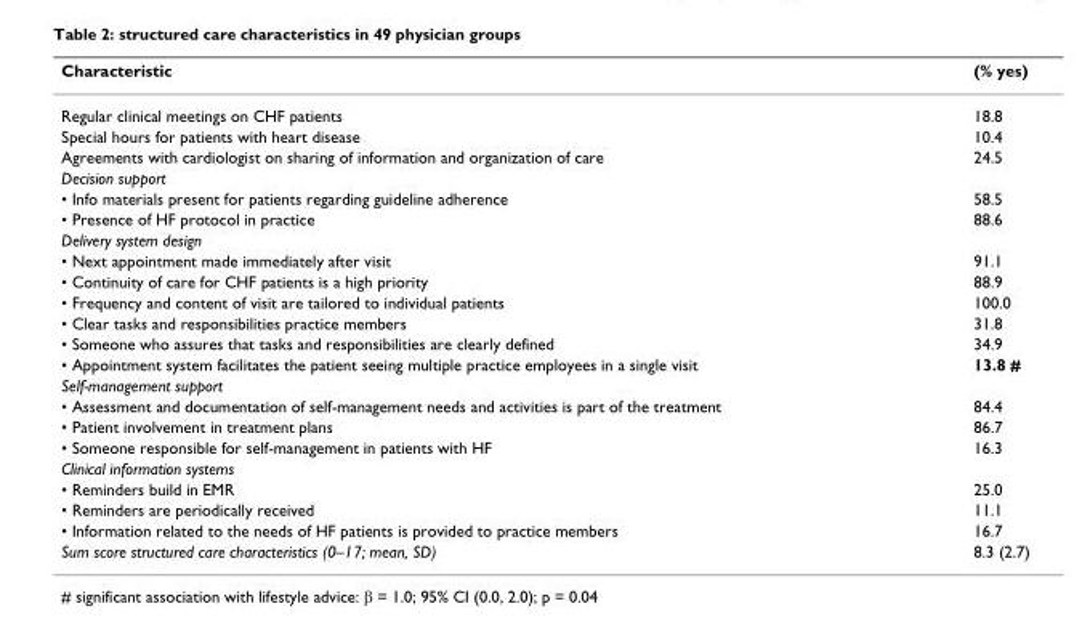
<table><thead><tr><td>Characteristic</td><td>(% yes)</td></tr></thead><tbody><tr><td>Regular clinical meetings on CHF patients</td><td>18.8</td></tr><tr><td>Special hours for patients with heart disease</td><td>10.4</td></tr><tr><td>Agreements with cardiologist on sharing of information and organization of care</td><td>24.5</td></tr><tr><td colspan="2">Decision support</td></tr><tr><td>• Info materials present for patients regarding guideline adherence</td><td>58.5</td></tr><tr><td>• Presence of HF protocol in practice</td><td>88.6</td></tr><tr><td colspan="2">Delivery system design</td></tr><tr><td>• Next appointment made immediately after visit</td><td>91.1</td></tr><tr><td>• Continuity of care for CHF patients is a high priority</td><td>88.9</td></tr><tr><td>• Frequency and content of visit are tailored to individual patients</td><td>100.0</td></tr><tr><td>• Clear tasks and responsibilities practice members</td><td>31.8</td></tr><tr><td>• Someone who assures that tasks and responsibilities are clearly defined</td><td>34.9</td></tr><tr><td>• Appointment system facilitates the patient seeing multiple practice employees in a single visit</td><td>13.8 #</td></tr><tr><td colspan="2">Self-management support</td></tr><tr><td>• Assessment and documentation of self-management needs and activities is part of the treatment</td><td>84.4</td></tr><tr><td>• Patient involvement in treatment plans</td><td>86.7</td></tr><tr><td>• Someone responsible for self-management in patients with HF</td><td>16.3</td></tr><tr><td colspan="2">Clinical information systems</td></tr><tr><td>• Reminders build in EMR</td><td>25.0</td></tr><tr><td>• Reminders are periodically received</td><td>11.1</td></tr><tr><td>• Information related to the needs of HF patients is provided to practice members</td><td>16.7</td></tr><tr><td>Sum score structured care characteristics (0–17; mean, SD)</td><td>8.3 (2.7)</td></tr></tbody></table>